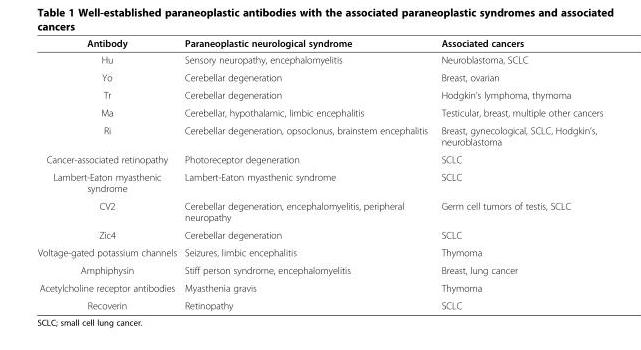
<table><thead><tr><td>Antibody</td><td>Paraneoplastic neurological syndrome</td><td>Associated cancers</td></tr></thead><tbody><tr><td>Hu</td><td>Sensory neuropathy, encephalomyelitis</td><td>Neuroblastoma, SCLC</td></tr><tr><td>Yo</td><td>Cerebellar degeneration</td><td>Breast, ovarian</td></tr><tr><td>Tr</td><td>Cerebellar degeneration</td><td>Hodgkin’s lymphoma, thymoma</td></tr><tr><td>Ma</td><td>Cerebellar, hypothalamic, limbic encephalitis</td><td>Testicular, breast, multiple other cancers</td></tr><tr><td>Ri</td><td>Cerebellar degeneration, opsoclonus, brainstem encephalitis</td><td>Breast, gynecological, SCLC, Hodgkin’s, neuroblastoma</td></tr><tr><td>Cancer-associated retinopathy</td><td>Photoreceptor degeneration</td><td>SCLC</td></tr><tr><td>Lambert-Eaton myasthenic syndrome</td><td>Lambert-Eaton myasthenic syndrome</td><td>SCLC</td></tr><tr><td>CV2</td><td>Cerebellar degeneration, encephalomyelitis, peripheral neuropathy</td><td>Germ cell tumors of testis, SCLC</td></tr><tr><td>Zic4</td><td>Cerebellar degeneration</td><td>SCLC</td></tr><tr><td>Voltage-gated potassium channels</td><td>Seizures, limbic encephalitis</td><td>Thymoma</td></tr><tr><td>Amphiphysin</td><td>Stiff person syndrome, encephalomyelitis</td><td>Breast, lung cancer</td></tr><tr><td>Acetylcholine receptor antibodies</td><td>Myasthenia gravis</td><td>Thymoma</td></tr><tr><td>Recoverin</td><td>Retinopathy</td><td>SCLC</td></tr></tbody></table>